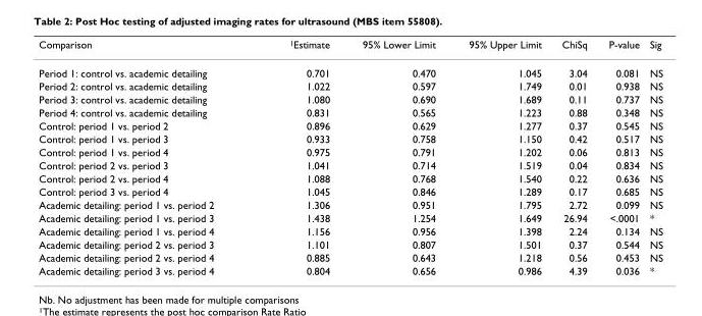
<table><thead><tr><td>Comparison</td><td><sup>1</sup>Estimate</td><td>95% Lower Limit</td><td>95% Upper Limit</td><td>ChiSq</td><td>P-value</td><td>Sig</td></tr></thead><tbody><tr><td>Period 1: control vs. academic detailing</td><td>0.701</td><td>0.470</td><td>1.045</td><td>3.04</td><td>0.081</td><td>NS</td></tr><tr><td>Period 2: control vs. academic detailing</td><td>1.022</td><td>0.597</td><td>1.749</td><td>0.01</td><td>0.938</td><td>NS</td></tr><tr><td>Period 3: control vs. academic detailing</td><td>1.080</td><td>0.690</td><td>1.689</td><td>0.11</td><td>0.737</td><td>NS</td></tr><tr><td>Period 4: control vs. academic detailing</td><td>0.831</td><td>0.565</td><td>1.223</td><td>0.88</td><td>0.348</td><td>NS</td></tr><tr><td>Control: period 1 vs. period 2</td><td>0.896</td><td>0.629</td><td>1.277</td><td>0.37</td><td>0.545</td><td>NS</td></tr><tr><td>Control: period 1 vs. period 3</td><td>0.933</td><td>0.758</td><td>1.150</td><td>0.42</td><td>0.517</td><td>NS</td></tr><tr><td>Control: period 1 vs. period 4</td><td>0.975</td><td>0.791</td><td>1.202</td><td>0.06</td><td>0.813</td><td>NS</td></tr><tr><td>Control: period 2 vs. period 3</td><td>1.041</td><td>0.714</td><td>1.519</td><td>0.04</td><td>0.834</td><td>NS</td></tr><tr><td>Control: period 2 vs. period 4</td><td>1.088</td><td>0.768</td><td>1.540</td><td>0.22</td><td>0.636</td><td>NS</td></tr><tr><td>Control: period 3 vs. period 4</td><td>1.045</td><td>0.846</td><td>1.289</td><td>0.17</td><td>0.685</td><td>NS</td></tr><tr><td>Academic detailing: period 1 vs. period 2</td><td>1.306</td><td>0.951</td><td>1.795</td><td>2.72</td><td>0.099</td><td>NS</td></tr><tr><td>Academic detailing: period 1 vs. period 3</td><td>1.438</td><td>1.254</td><td>1.649</td><td>26.94</td><td>&lt;.0001</td><td>*</td></tr><tr><td>Academic detailing: period 1 vs. period 4</td><td>1.156</td><td>0.956</td><td>1.398</td><td>2.24</td><td>0.134</td><td>NS</td></tr><tr><td>Academic detailing: period 2 vs. period 3</td><td>1.101</td><td>0.807</td><td>1.501</td><td>0.37</td><td>0.544</td><td>NS</td></tr><tr><td>Academic detailing: period 2 vs. period 4</td><td>0.885</td><td>0.643</td><td>1.218</td><td>0.56</td><td>0.453</td><td>NS</td></tr><tr><td>Academic detailing: period 3 vs. period 4</td><td>0.804</td><td>0.656</td><td>0.986</td><td>4.39</td><td>0.036</td><td>*</td></tr></tbody></table>